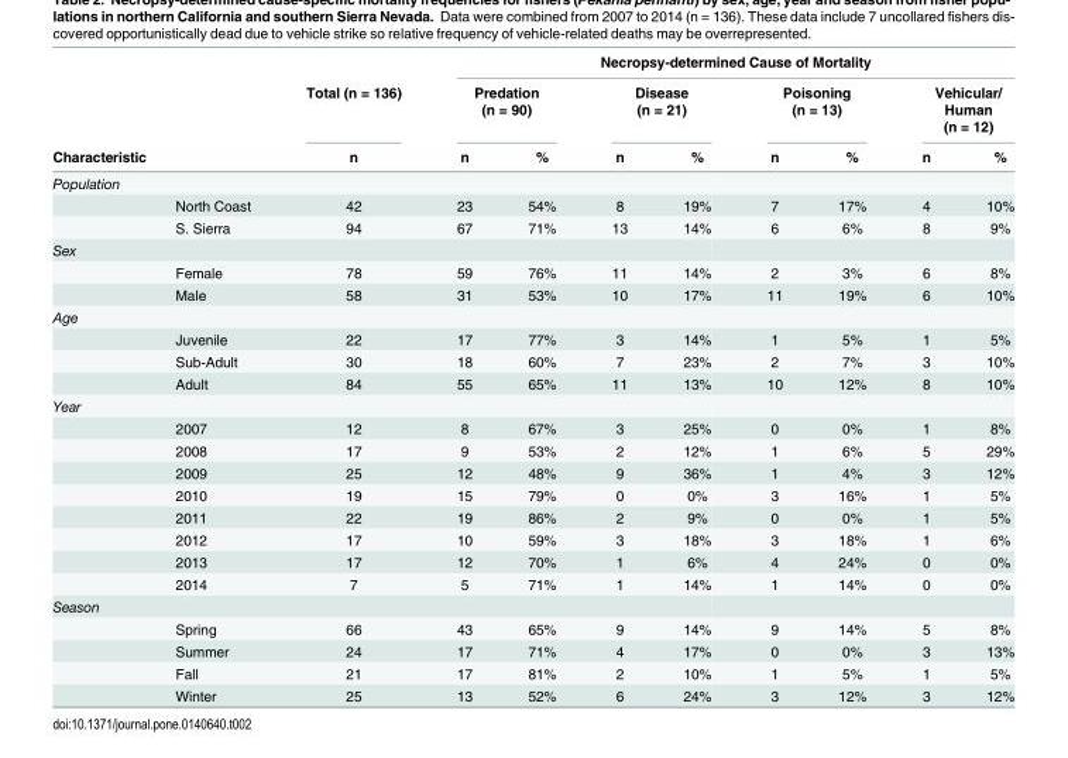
<table><thead><tr><td rowspan="2"></td><td rowspan="2"></td><td rowspan="3">Total (n = 136) n</td><td colspan="8">Necropsy-determined Cause of Mortality</td></tr><tr><td colspan="2">Predation (n = 90)</td><td colspan="2">Disease (n = 21)</td><td colspan="2">Poisoning (n = 13)</td><td colspan="2">Vehicular/ Human (n = 12)</td></tr><tr><td colspan="2">Characteristic</td><td>n</td><td>%</td><td>n</td><td>%</td><td>n</td><td>%</td><td>n</td><td>%</td></tr></thead><tbody><tr><td colspan="11">Population</td></tr><tr><td></td><td>North Coast</td><td>42</td><td>23</td><td>54%</td><td>8</td><td>19%</td><td>7</td><td>17%</td><td>4</td><td>10%</td></tr><tr><td></td><td>S. Sierra</td><td>94</td><td>67</td><td>71%</td><td>13</td><td>14%</td><td>6</td><td>6%</td><td>8</td><td>9%</td></tr><tr><td colspan="11">Sex</td></tr><tr><td></td><td>Female</td><td>78</td><td>59</td><td>76%</td><td>11</td><td>14%</td><td>2</td><td>3%</td><td>6</td><td>8%</td></tr><tr><td></td><td>Male</td><td>58</td><td>31</td><td>53%</td><td>10</td><td>17%</td><td>11</td><td>19%</td><td>6</td><td>10%</td></tr><tr><td colspan="11">Age</td></tr><tr><td></td><td>Juvenile</td><td>22</td><td>17</td><td>77%</td><td>3</td><td>14%</td><td>1</td><td>5%</td><td>1</td><td>5%</td></tr><tr><td></td><td>Sub-Adult</td><td>30</td><td>18</td><td>60%</td><td>7</td><td>23%</td><td>2</td><td>7%</td><td>3</td><td>10%</td></tr><tr><td></td><td>Adult</td><td>84</td><td>55</td><td>65%</td><td>11</td><td>13%</td><td>10</td><td>12%</td><td>8</td><td>10%</td></tr><tr><td colspan="11">Year</td></tr><tr><td></td><td>2007</td><td>12</td><td>8</td><td>67%</td><td>3</td><td>25%</td><td>0</td><td>0%</td><td>1</td><td>8%</td></tr><tr><td></td><td>2008</td><td>17</td><td>9</td><td>53%</td><td>2</td><td>12%</td><td>1</td><td>6%</td><td>5</td><td>29%</td></tr><tr><td></td><td>2009</td><td>25</td><td>12</td><td>48%</td><td>9</td><td>36%</td><td>1</td><td>4%</td><td>3</td><td>12%</td></tr><tr><td></td><td>2010</td><td>19</td><td>15</td><td>79%</td><td>0</td><td>0%</td><td>3</td><td>16%</td><td>1</td><td>5%</td></tr><tr><td></td><td>2011</td><td>22</td><td>19</td><td>86%</td><td>2</td><td>9%</td><td>0</td><td>0%</td><td>1</td><td>5%</td></tr><tr><td></td><td>2012</td><td>17</td><td>10</td><td>59%</td><td>3</td><td>18%</td><td>3</td><td>18%</td><td>1</td><td>6%</td></tr><tr><td></td><td>2013</td><td>17</td><td>12</td><td>70%</td><td>1</td><td>6%</td><td>4</td><td>24%</td><td>0</td><td>0%</td></tr><tr><td></td><td>2014</td><td>7</td><td>5</td><td>71%</td><td>1</td><td>14%</td><td>1</td><td>14%</td><td>0</td><td>0%</td></tr><tr><td colspan="11">Season</td></tr><tr><td></td><td>Spring</td><td>66</td><td>43</td><td>65%</td><td>9</td><td>14%</td><td>9</td><td>14%</td><td>5</td><td>8%</td></tr><tr><td></td><td>Summer</td><td>24</td><td>17</td><td>71%</td><td>4</td><td>17%</td><td>0</td><td>0%</td><td>3</td><td>13%</td></tr><tr><td></td><td>Fall</td><td>21</td><td>17</td><td>81%</td><td>2</td><td>10%</td><td>1</td><td>5%</td><td>1</td><td>5%</td></tr><tr><td></td><td>Winter</td><td>25</td><td>13</td><td>52%</td><td>6</td><td>24%</td><td>3</td><td>12%</td><td>3</td><td>12%</td></tr></tbody></table>